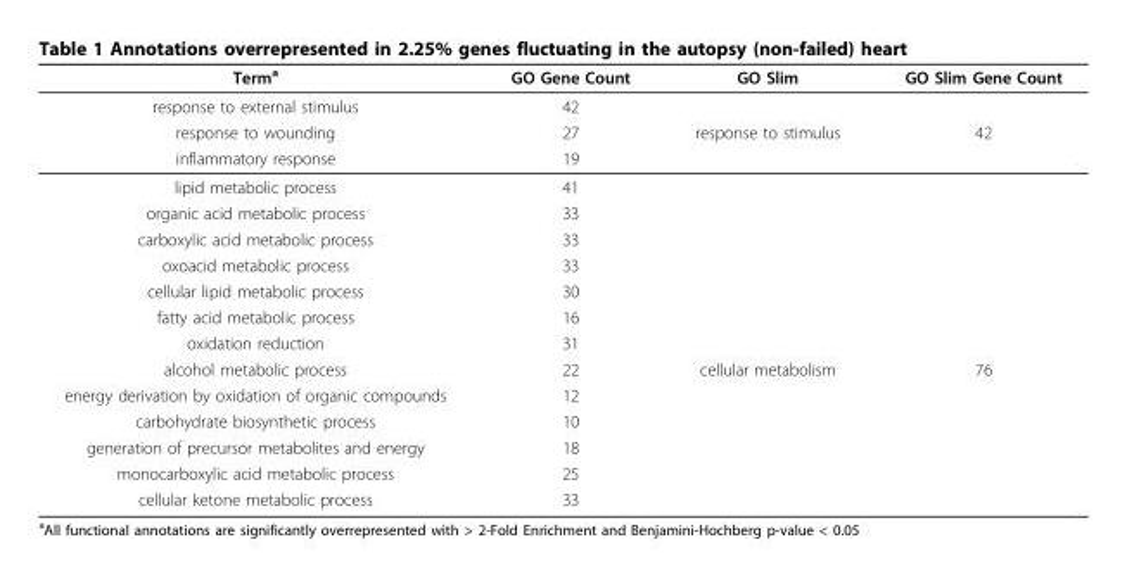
<table><thead><tr><td>Term<sup>a</sup></td><td>GO Gene Count</td><td>GO Slim</td><td>GO Slim Gene Count</td></tr></thead><tbody><tr><td>response to external stimulus</td><td>42</td><td></td><td></td></tr><tr><td>response to wounding</td><td>27</td><td>response to stimulus</td><td>42</td></tr><tr><td>inflammatory response</td><td>19</td><td></td><td></td></tr><tr><td>lipid metabolic process</td><td>41</td><td></td><td></td></tr><tr><td>organic acid metabolic process</td><td>33</td><td></td><td></td></tr><tr><td>carboxylic acid metabolic process</td><td>33</td><td></td><td></td></tr><tr><td>oxoacid metabolic process</td><td>33</td><td></td><td></td></tr><tr><td>cellular lipid metabolic process</td><td>30</td><td></td><td></td></tr><tr><td>fatty acid metabolic process</td><td>16</td><td></td><td></td></tr><tr><td>oxidation reduction</td><td>31</td><td></td><td></td></tr><tr><td>alcohol metabolic process</td><td>22</td><td>cellular metabolism</td><td>76</td></tr><tr><td>energy derivation by oxidation of organic compounds</td><td>12</td><td></td><td></td></tr><tr><td>carbohydrate biosynthetic process</td><td>10</td><td></td><td></td></tr><tr><td>generation of precursor metabolites and energy</td><td>18</td><td></td><td></td></tr><tr><td>monocarboxylic acid metabolic process</td><td>25</td><td></td><td></td></tr><tr><td>cellular ketone metabolic process</td><td>33</td><td></td><td></td></tr></tbody></table>